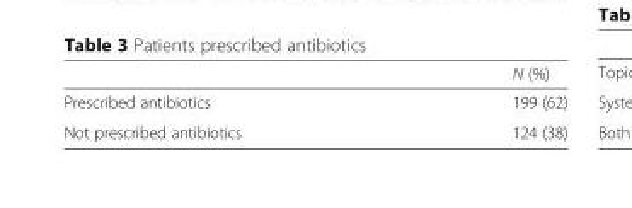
<table><thead><tr><td></td><td>N (%)</td></tr></thead><tbody><tr><td>Prescribed antibiotics</td><td>199 (62)</td></tr><tr><td>Not prescribed antibiotics</td><td>124 (38)</td></tr></tbody></table>